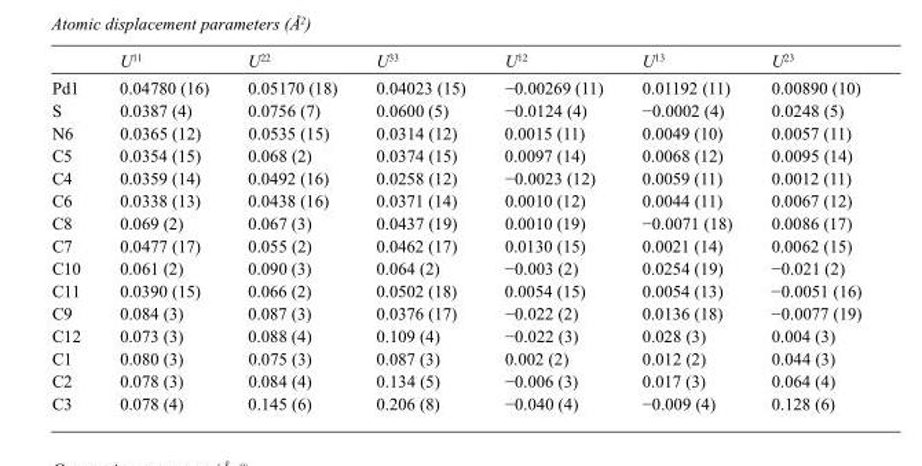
<table><thead><tr><td></td><td>U<sup>11</sup></td><td>U<sup>22</sup></td><td>U<sup>33</sup></td><td>U<sup>12</sup></td><td>U<sup>13</sup></td><td>U<sup>23</sup></td></tr></thead><tbody><tr><td>Pd1</td><td>0.04780 (16)</td><td>0.05170 (18)</td><td>0.04023 (15)</td><td>−0.00269 (11)</td><td>0.01192 (11)</td><td>0.00890 (10)</td></tr><tr><td>S</td><td>0.0387 (4)</td><td>0.0756 (7)</td><td>0.0600 (5)</td><td>−0.0124 (4)</td><td>−0.0002 (4)</td><td>0.0248 (5)</td></tr><tr><td>N6</td><td>0.0365 (12)</td><td>0.0535 (15)</td><td>0.0314 (12)</td><td>0.0015 (11)</td><td>0.0049 (10)</td><td>0.0057 (11)</td></tr><tr><td>C5</td><td>0.0354 (15)</td><td>0.068 (2)</td><td>0.0374 (15)</td><td>0.0097 (14)</td><td>0.0068 (12)</td><td>0.0095 (14)</td></tr><tr><td>C4</td><td>0.0359 (14)</td><td>0.0492 (16)</td><td>0.0258 (12)</td><td>−0.0023 (12)</td><td>0.0059 (11)</td><td>0.0012 (11)</td></tr><tr><td>C6</td><td>0.0338 (13)</td><td>0.0438 (16)</td><td>0.0371 (14)</td><td>0.0010 (12)</td><td>0.0044 (11)</td><td>0.0067 (12)</td></tr><tr><td>C8</td><td>0.069 (2)</td><td>0.067 (3)</td><td>0.0437 (19)</td><td>0.0010 (19)</td><td>−0.0071 (18)</td><td>0.0086 (17)</td></tr><tr><td>C7</td><td>0.0477 (17)</td><td>0.055 (2)</td><td>0.0462 (17)</td><td>0.0130 (15)</td><td>0.0021 (14)</td><td>0.0062 (15)</td></tr><tr><td>C10</td><td>0.061 (2)</td><td>0.090 (3)</td><td>0.064 (2)</td><td>−0.003 (2)</td><td>0.0254 (19)</td><td>−0.021 (2)</td></tr><tr><td>C11</td><td>0.0390 (15)</td><td>0.066 (2)</td><td>0.0502 (18)</td><td>0.0054 (15)</td><td>0.0054 (13)</td><td>−0.0051 (16)</td></tr><tr><td>C9</td><td>0.084 (3)</td><td>0.087 (3)</td><td>0.0376 (17)</td><td>−0.022 (2)</td><td>0.0136 (18)</td><td>−0.0077 (19)</td></tr><tr><td>C12</td><td>0.073 (3)</td><td>0.088 (4)</td><td>0.109 (4)</td><td>−0.022 (3)</td><td>0.028 (3)</td><td>0.004 (3)</td></tr><tr><td>C1</td><td>0.080 (3)</td><td>0.075 (3)</td><td>0.087 (3)</td><td>0.002 (2)</td><td>0.012 (2)</td><td>0.044 (3)</td></tr><tr><td>C2</td><td>0.078 (3)</td><td>0.084 (4)</td><td>0.134 (5)</td><td>−0.006 (3)</td><td>0.017 (3)</td><td>0.064 (4)</td></tr><tr><td>C3</td><td>0.078 (4)</td><td>0.145 (6)</td><td>0.206 (8)</td><td>−0.040 (4)</td><td>−0.009 (4)</td><td>0.128 (6)</td></tr></tbody></table>